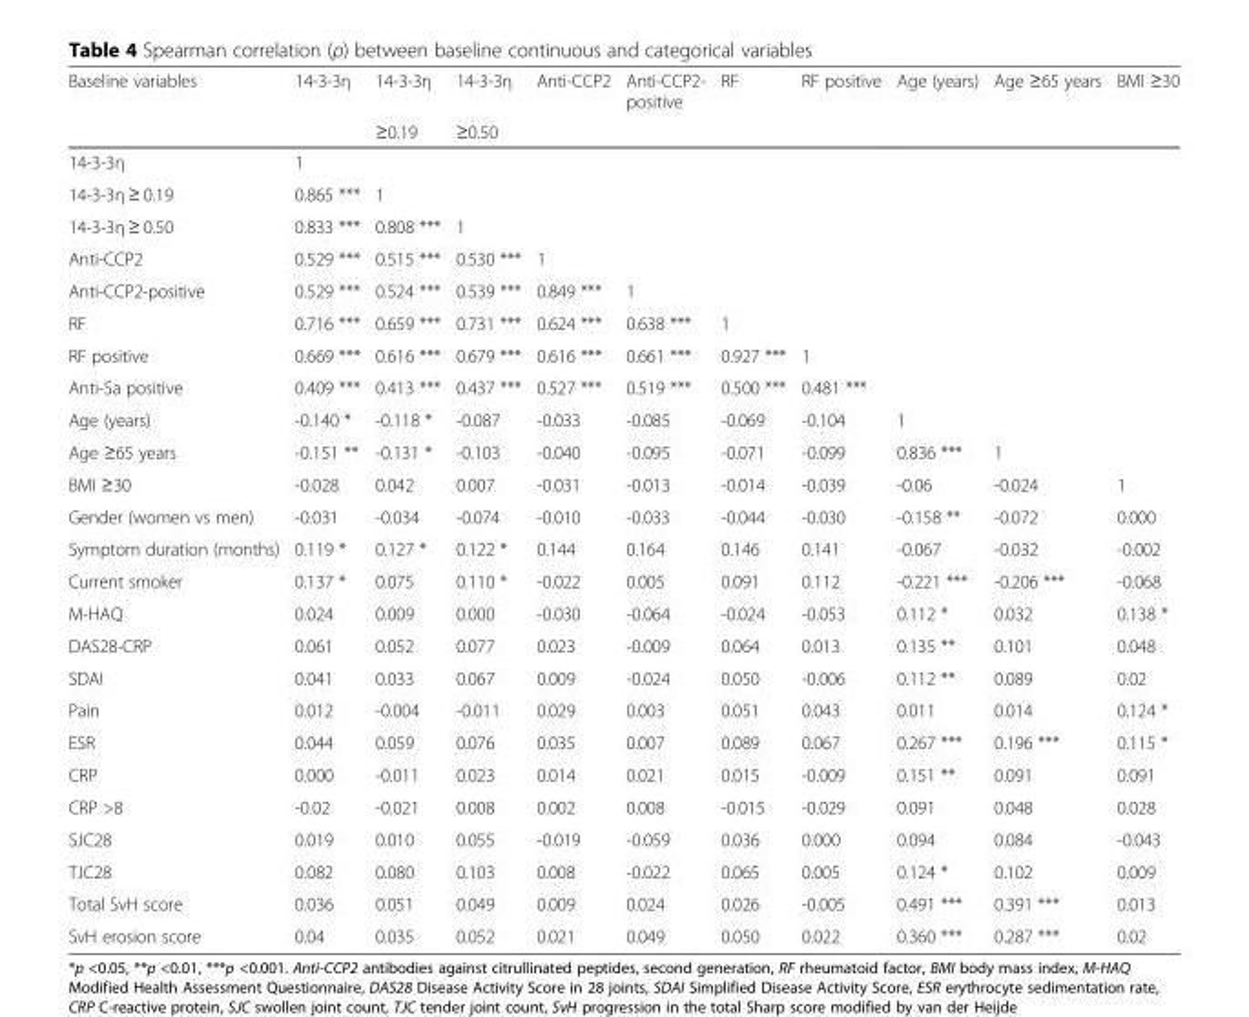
<table><thead><tr><td rowspan="2">Baseline variables</td><td rowspan="2">14-3-3η</td><td rowspan="2">14-3-3η ≥0.19</td><td rowspan="2">14-3-3η ≥0.50</td><td rowspan="2">Anti-CCP2</td><td rowspan="2">Anti-CCP2- positive</td><td rowspan="2">RF</td><td rowspan="2">RF positive</td><td rowspan="2">Age (years)</td><td rowspan="2">Age ≥65 years</td><td rowspan="2">BMI ≥30</td></tr><tr></tr></thead><tbody><tr><td>14-3-3η</td><td>1</td><td></td><td></td><td></td><td></td><td></td><td></td><td></td><td></td><td></td></tr><tr><td>14-3-3η ≥ 0.19</td><td>0.865 ***</td><td>1</td><td></td><td></td><td></td><td></td><td></td><td></td><td></td><td></td></tr><tr><td>14-3-3η ≥ 0.50</td><td>0.833 ***</td><td>0.808 ***</td><td>1</td><td></td><td></td><td></td><td></td><td></td><td></td><td></td></tr><tr><td>Anti-CCP2</td><td>0.529 ***</td><td>0.515 ***</td><td>0.530 ***</td><td>1</td><td></td><td></td><td></td><td></td><td></td><td></td></tr><tr><td>Anti-CCP2-positive</td><td>0.529 ***</td><td>0.524 ***</td><td>0.539 ***</td><td>0.849 ***</td><td>1</td><td></td><td></td><td></td><td></td><td></td></tr><tr><td>RF</td><td>0.716 ***</td><td>0.659 ***</td><td>0.731 ***</td><td>0.624 ***</td><td>0.638 ***</td><td>1</td><td></td><td></td><td></td><td></td></tr><tr><td>RF positive</td><td>0.669 ***</td><td>0.616 ***</td><td>0.679 ***</td><td>0.616 ***</td><td>0.661 ***</td><td>0.927 ***</td><td>1</td><td></td><td></td><td></td></tr><tr><td>Anti-Sa positive</td><td>0.409 ***</td><td>0.413 ***</td><td>0.437 ***</td><td>0.527 ***</td><td>0.519 ***</td><td>0.500 ***</td><td>0.481 ***</td><td></td><td></td><td></td></tr><tr><td>Age (years)</td><td>-0.140 *</td><td>-0.118 *</td><td>-0.087</td><td>-0.033</td><td>-0.085</td><td>-0.069</td><td>-0.104</td><td>1</td><td></td><td></td></tr><tr><td>Age ≥65 years</td><td>-0.151 **</td><td>-0.131 *</td><td>-0.103</td><td>-0.040</td><td>-0.095</td><td>-0.071</td><td>-0.099</td><td>0.836 ***</td><td>1</td><td></td></tr><tr><td>BMI ≥30</td><td>-0.028</td><td>0.042</td><td>0.007</td><td>-0.031</td><td>-0.013</td><td>-0.014</td><td>-0.039</td><td>-0.06</td><td>-0.024</td><td>1</td></tr><tr><td>Gender (women vs men)</td><td>-0.031</td><td>-0.034</td><td>-0.074</td><td>-0.010</td><td>-0.033</td><td>-0.044</td><td>-0.030</td><td>-0.158 **</td><td>-0.072</td><td>0.000</td></tr><tr><td>Symptom duration (months)</td><td>0.119 *</td><td>0.127 *</td><td>0.122 *</td><td>0.144</td><td>0.164</td><td>0.146</td><td>0.141</td><td>-0.067</td><td>-0.032</td><td>-0.002</td></tr><tr><td>Current smoker</td><td>0.137 *</td><td>0.075</td><td>0.110 *</td><td>-0.022</td><td>0.005</td><td>0.091</td><td>0.112</td><td>-0.221 ***</td><td>-0.206 ***</td><td>-0.068</td></tr><tr><td>M-HAQ</td><td>0.024</td><td>0.009</td><td>0.000</td><td>-0.030</td><td>-0.064</td><td>-0.024</td><td>-0.053</td><td>0.112 *</td><td>0.032</td><td>0.138 *</td></tr><tr><td>DAS28-CRP</td><td>0.061</td><td>0.052</td><td>0.077</td><td>0.023</td><td>-0.009</td><td>0.064</td><td>0.013</td><td>0.135 **</td><td>0.101</td><td>0.048</td></tr><tr><td>SDAI</td><td>0.041</td><td>0.033</td><td>0.067</td><td>0.009</td><td>-0.024</td><td>0.050</td><td>-0.006</td><td>0.112 **</td><td>0.089</td><td>0.02</td></tr><tr><td>Pain</td><td>0.012</td><td>-0.004</td><td>-0.011</td><td>0.029</td><td>0.003</td><td>0.051</td><td>0.043</td><td>0.011</td><td>0.014</td><td>0.124 *</td></tr><tr><td>ESR</td><td>0.044</td><td>0.059</td><td>0.076</td><td>0.035</td><td>0.007</td><td>0.089</td><td>0.067</td><td>0.267 ***</td><td>0.196 ***</td><td>0.115 *</td></tr><tr><td>CRP</td><td>0.000</td><td>-0.011</td><td>0.023</td><td>0.014</td><td>0.021</td><td>0.015</td><td>-0.009</td><td>0.151 **</td><td>0.091</td><td>0.091</td></tr><tr><td>CRP &gt;8</td><td>-0.02</td><td>-0.021</td><td>0.008</td><td>0.002</td><td>0.008</td><td>-0.015</td><td>-0.029</td><td>0.091</td><td>0.048</td><td>0.028</td></tr><tr><td>SJC28</td><td>0.019</td><td>0.010</td><td>0.055</td><td>-0.019</td><td>-0.059</td><td>0.036</td><td>0.000</td><td>0.094</td><td>0.084</td><td>-0.043</td></tr><tr><td>TJC28</td><td>0.082</td><td>0.080</td><td>0.103</td><td>0.008</td><td>-0.022</td><td>0.065</td><td>0.005</td><td>0.124 *</td><td>0.102</td><td>0.009</td></tr><tr><td>Total SvH score</td><td>0.036</td><td>0.051</td><td>0.049</td><td>0.009</td><td>0.024</td><td>0.026</td><td>-0.005</td><td>0.491 ***</td><td>0.391 ***</td><td>0.013</td></tr><tr><td>SvH erosion score</td><td>0.04</td><td>0.035</td><td>0.052</td><td>0.021</td><td>0.049</td><td>0.050</td><td>0.022</td><td>0.360 ***</td><td>0.287 ***</td><td>0.02</td></tr></tbody></table>